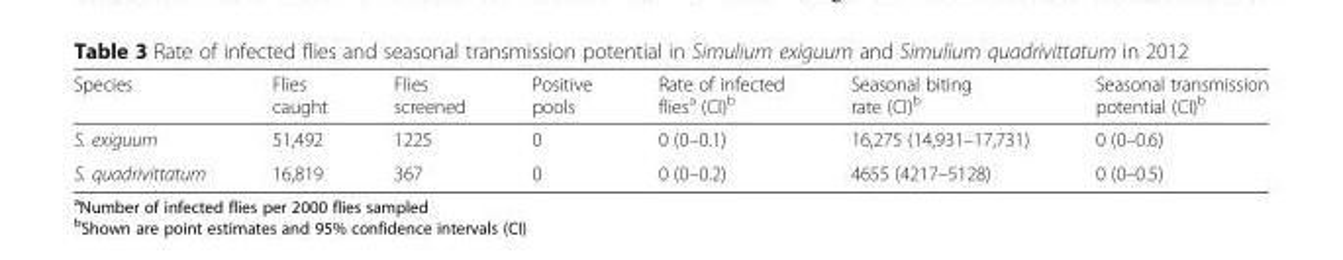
<table><thead><tr><td>Species</td><td>Flies caught</td><td>Flies screened</td><td>Positive pools</td><td>Rate of infected flies<sup>a</sup> (CI)<sup>b</sup></td><td>Seasonal biting rate (CI)<sup>b</sup></td><td>Seasonal transmission potential (CI)<sup>b</sup></td></tr></thead><tbody><tr><td>S. exiguum</td><td>51,492</td><td>1225</td><td>0</td><td>0 (0–0.1)</td><td>16,275 (14,931–17,731)</td><td>0 (0–0.6)</td></tr><tr><td>S. quadrivittatum</td><td>16,819</td><td>367</td><td>0</td><td>0 (0–0.2)</td><td>4655 (4217–5128)</td><td>0 (0–0.5)</td></tr></tbody></table>